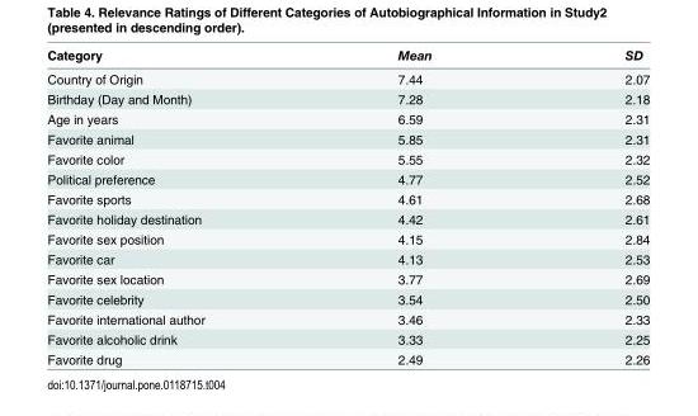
<table><thead><tr><td>Category</td><td>Mean</td><td>SD</td></tr></thead><tbody><tr><td>Country of Origin</td><td>7.44</td><td>2.07</td></tr><tr><td>Birthday (Day and Month)</td><td>7.28</td><td>2.18</td></tr><tr><td>Age in years</td><td>6.59</td><td>2.31</td></tr><tr><td>Favorite animal</td><td>5.85</td><td>2.31</td></tr><tr><td>Favorite color</td><td>5.55</td><td>2.32</td></tr><tr><td>Political preference</td><td>4.77</td><td>2.52</td></tr><tr><td>Favorite sports</td><td>4.61</td><td>2.68</td></tr><tr><td>Favorite holiday destination</td><td>4.42</td><td>2.61</td></tr><tr><td>Favorite sex position</td><td>4.15</td><td>2.84</td></tr><tr><td>Favorite car</td><td>4.13</td><td>2.53</td></tr><tr><td>Favorite sex location</td><td>3.77</td><td>2.69</td></tr><tr><td>Favorite celebrity</td><td>3.54</td><td>2.50</td></tr><tr><td>Favorite international author</td><td>3.46</td><td>2.33</td></tr><tr><td>Favorite alcoholic drink</td><td>3.33</td><td>2.25</td></tr><tr><td>Favorite drug</td><td>2.49</td><td>2.26</td></tr></tbody></table>